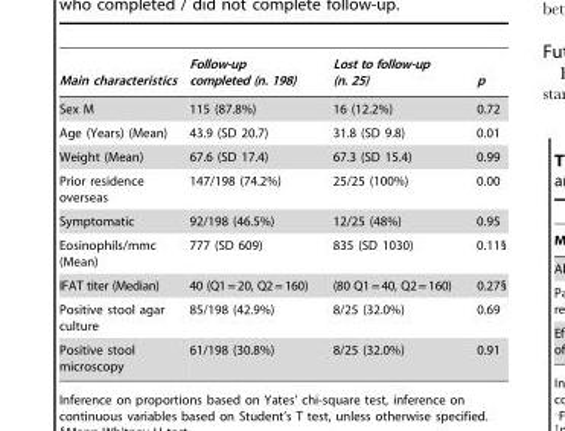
<table><thead><tr><td>Main characteristics</td><td>Follow-up completed (n. 198)</td><td>Lost to follow-up (n. 25)</td><td>p</td></tr></thead><tbody><tr><td>Sex M</td><td>115 (87.8%)</td><td>16 (12.2%)</td><td>0.72</td></tr><tr><td>Age (Years) (Mean)</td><td>43.9 (SD 20.7)</td><td>31.8 (SD 9.8)</td><td>0.01</td></tr><tr><td>Weight (Mean)</td><td>67.6 (SD 17.4)</td><td>67.3 (SD 15.4)</td><td>0.99</td></tr><tr><td>Prior residence overseas</td><td>147/198 (74.2%)</td><td>25/25 (100%)</td><td>0.00</td></tr><tr><td>Symptomatic</td><td>92/198 (46.5%)</td><td>12/25 (48%)</td><td>0.95</td></tr><tr><td>Eosinophils/mmc (Mean)</td><td>777 (SD 609)</td><td>835 (SD 1030)</td><td>0.11§</td></tr><tr><td>IFAT titer (Median)</td><td>40 (Q1=20, Q2=160)</td><td>(80 Q1=40, Q2=160)</td><td>0.27§</td></tr><tr><td>Positive stool agar culture</td><td>85/198 (42.9%)</td><td>8/25 (32.0%)</td><td>0.69</td></tr><tr><td>Positive stool microscopy</td><td>61/198 (30.8%)</td><td>8/25 (32.0%)</td><td>0.91</td></tr></tbody></table>